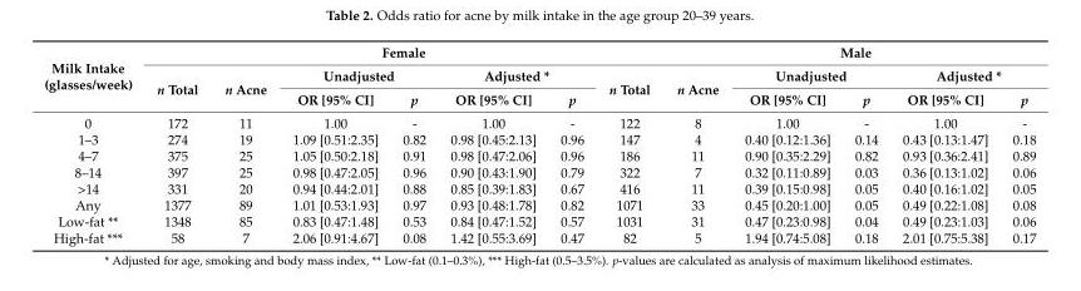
<table><thead><tr><td rowspan="3">Milk Intake (glasses/week)</td><td colspan="7">Female</td><td colspan="5">Male</td></tr><tr><td rowspan="2">n Total</td><td rowspan="2">n Acne</td><td colspan="2">Unadjusted</td><td colspan="2">Adjusted *</td><td rowspan="2">n Total</td><td rowspan="2">n Acne</td><td colspan="2">Unadjusted</td><td colspan="2">Adjusted *</td></tr><tr><td>OR [95% CI]</td><td>p</td><td>OR [95% CI]</td><td>p</td><td>OR [95% CI]</td><td>p</td><td>OR [95% CI]</td><td>p</td></tr></thead><tbody><tr><td>0</td><td>172</td><td>11</td><td>1.00</td><td>-</td><td>1.00</td><td>-</td><td>122</td><td>8</td><td>1.00</td><td>-</td><td>1.00</td><td>-</td></tr><tr><td>1–3</td><td>274</td><td>19</td><td>1.09 [0.51:2.35]</td><td>0.82</td><td>0.98 [0.45:2.13]</td><td>0.96</td><td>147</td><td>4</td><td>0.40 [0.12:1.36]</td><td>0.14</td><td>0.43 [0.13:1.47]</td><td>0.18</td></tr><tr><td>4–7</td><td>375</td><td>25</td><td>1.05 [0.50:2.18]</td><td>0.91</td><td>0.98 [0.47:2.06]</td><td>0.96</td><td>186</td><td>11</td><td>0.90 [0.35:2.29]</td><td>0.82</td><td>0.93 [0.36:2.41]</td><td>0.89</td></tr><tr><td>8–14</td><td>397</td><td>25</td><td>0.98 [0.47:2.05]</td><td>0.96</td><td>0.90 [0.43:1.90]</td><td>0.79</td><td>322</td><td>7</td><td>0.32 [0.11:0.89]</td><td>0.03</td><td>0.36 [0.13:1.02]</td><td>0.06</td></tr><tr><td>&gt;14</td><td>331</td><td>20</td><td>0.94 [0.44:2.01]</td><td>0.88</td><td>0.85 [0.39:1.83]</td><td>0.67</td><td>416</td><td>11</td><td>0.39 [0.15:0.98]</td><td>0.05</td><td>0.40 [0.16:1.02]</td><td>0.05</td></tr><tr><td>Any</td><td>1377</td><td>89</td><td>1.01 [0.53:1.93]</td><td>0.97</td><td>0.93 [0.48:1.78]</td><td>0.82</td><td>1071</td><td>33</td><td>0.45 [0.20:1.00]</td><td>0.05</td><td>0.49 [0.22:1.08]</td><td>0.08</td></tr><tr><td>Low-fat **</td><td>1348</td><td>85</td><td>0.83 [0.47:1.48]</td><td>0.53</td><td>0.84 [0.47:1.52]</td><td>0.57</td><td>1031</td><td>31</td><td>0.47 [0.23:0.98]</td><td>0.04</td><td>0.49 [0.23:1.03]</td><td>0.06</td></tr><tr><td>High-fat ***</td><td>58</td><td>7</td><td>2.06 [0.91:4.67]</td><td>0.08</td><td>1.42 [0.55:3.69]</td><td>0.47</td><td>82</td><td>5</td><td>1.94 [0.74:5.08]</td><td>0.18</td><td>2.01 [0.75:5.38]</td><td>0.17</td></tr></tbody></table>